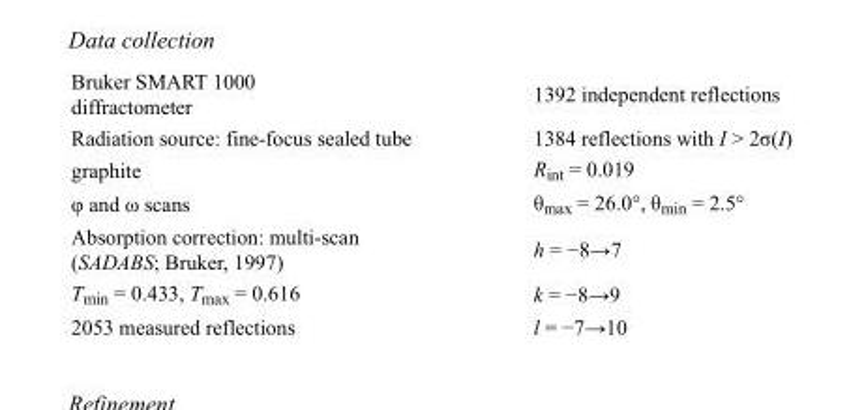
<table><tbody><tr><td>Bruker SMART 1000 diffractometer</td><td>1392 independent reflections</td></tr><tr><td>Radiation source: fine-focus sealed tube</td><td>1384 reflections with I &gt; 2σ(I)</td></tr><tr><td>graphite</td><td>R<sub>int</sub> = 0.019</td></tr><tr><td>φ and ω scans</td><td>θ<sub>max</sub> = 26.0°, θ<sub>min</sub> = 2.5°</td></tr><tr><td>Absorption correction: multi-scan (SADABS; Bruker, 1997)</td><td>h = −8→7</td></tr><tr><td>T<sub>min</sub> = 0.433, T<sub>max</sub> = 0.616</td><td>k = −8→9</td></tr><tr><td>2053 measured reflections</td><td>l = −7→10</td></tr></tbody></table>